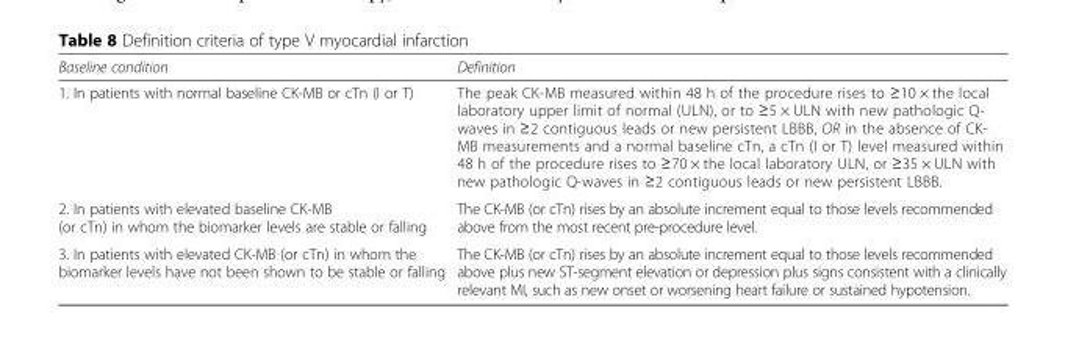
<table><thead><tr><td>Baseline condition</td><td>Definition</td></tr></thead><tbody><tr><td>1. In patients with normal baseline CK-MB or cTn (I or T)</td><td>The peak CK-MB measured within 48 h of the procedure rises to ≥10 × the local laboratory upper limit of normal (ULN), or to ≥5 × ULN with new pathologic Q- waves in ≥2 contiguous leads or new persistent LBBB, OR in the absence of CK- MB measurements and a normal baseline cTn, a cTn (I or T) level measured within 48 h of the procedure rises to ≥70 × the local laboratory ULN, or ≥35 × ULN with new pathologic Q-waves in ≥2 contiguous leads or new persistent LBBB.</td></tr><tr><td>2. In patients with elevated baseline CK-MB (or cTn) in whom the biomarker levels are stable or falling</td><td>The CK-MB (or cTn) rises by an absolute increment equal to those levels recommended above from the most recent pre-procedure level.</td></tr><tr><td>3. In patients with elevated CK-MB (or cTn) in whom the biomarker levels have not been shown to be stable or falling</td><td>The CK-MB (or cTn) rises by an absolute increment equal to those levels recommended above plus new ST-segment elevation or depression plus signs consistent with a clinically relevant MI, such as new onset or worsening heart failure or sustained hypotension.</td></tr></tbody></table>